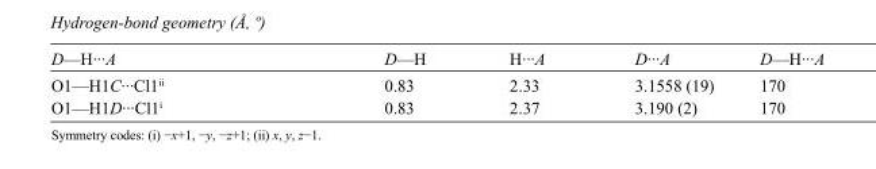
<table><tbody><tr><td>D—H···A</td><td>D—H</td><td>H···A</td><td>D···A</td><td>D—H···A</td></tr><tr><td>O1—H1C···Cl1<sup>ii</sup></td><td>0.83</td><td>2.33</td><td>3.1558 (19)</td><td>170</td></tr><tr><td>O1—H1D···Cl1<sup>i</sup></td><td>0.83</td><td>2.37</td><td>3.190 (2)</td><td>170</td></tr></tbody></table>